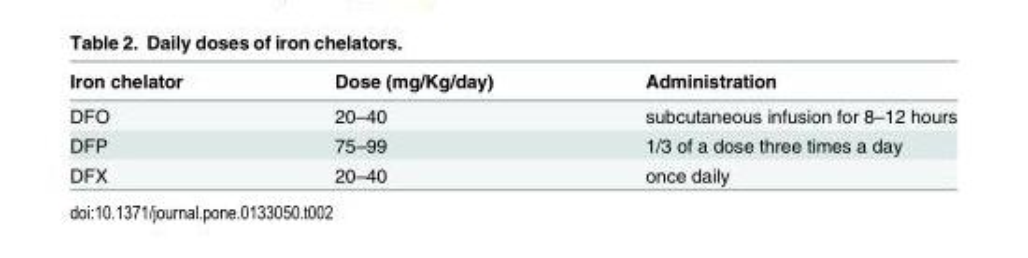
<table><thead><tr><td>Iron chelator</td><td>Dose (mg/Kg/day)</td><td>Administration</td></tr></thead><tbody><tr><td>DFO</td><td>20–40</td><td>subcutaneous infusion for 8–12 hours</td></tr><tr><td>DFP</td><td>75–99</td><td>1/3 of a dose three times a day</td></tr><tr><td>DFX</td><td>20–40</td><td>once daily</td></tr></tbody></table>